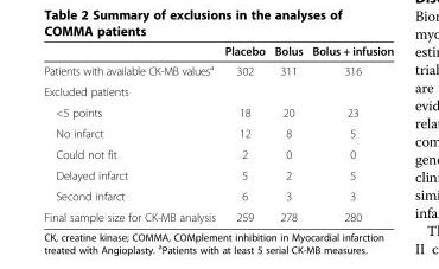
<table><thead><tr><td></td><td>Placebo</td><td>Bolus</td><td>Bolus + infusion</td></tr></thead><tbody><tr><td>Patients with available CK-MB values<sup>a</sup></td><td>302</td><td>311</td><td>316</td></tr><tr><td colspan="4">Excluded patients</td></tr><tr><td>&lt;5 points</td><td>18</td><td>20</td><td>23</td></tr><tr><td>No infarct</td><td>12</td><td>8</td><td>5</td></tr><tr><td>Could not fit</td><td>2</td><td>0</td><td>0</td></tr><tr><td>Delayed infarct</td><td>5</td><td>2</td><td>5</td></tr><tr><td>Second infarct</td><td>6</td><td>3</td><td>3</td></tr><tr><td>Final sample size for CK-MB analysis</td><td>259</td><td>278</td><td>280</td></tr></tbody></table>